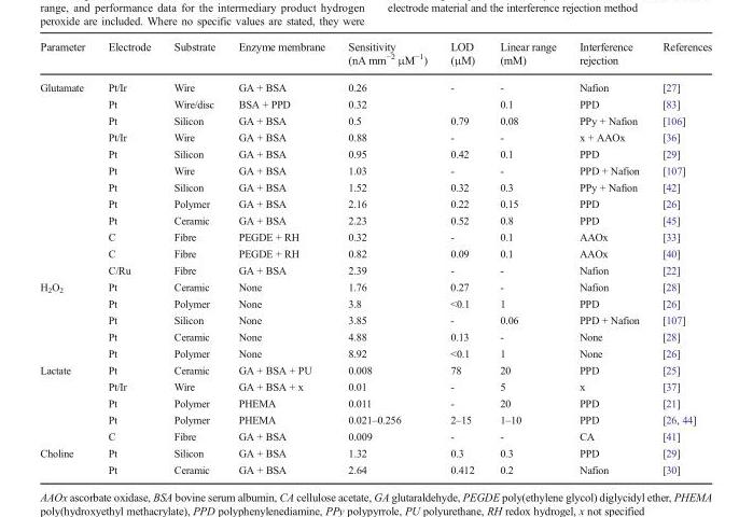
<table><thead><tr><td>Parameter</td><td>Electrode</td><td>Substrate</td><td>Enzyme membrane</td><td>Sensitivity (nA mm<sup>−2</sup> μM<sup>−1</sup>)</td><td>LOD (μM)</td><td>Linear range (mM)</td><td>Interference rejection</td><td>References</td></tr></thead><tbody><tr><td rowspan="12">Glutamate</td><td>Pt/Ir</td><td>Wire</td><td>GA + BSA</td><td>0.26</td><td>-</td><td>-</td><td>Nafion</td><td>[27]</td></tr><tr><td>Pt</td><td>Wire/disc</td><td>BSA + PPD</td><td>0.32</td><td></td><td>0.1</td><td>PPD</td><td>[83]</td></tr><tr><td>Pt</td><td>Silicon</td><td>GA + BSA</td><td>0.5</td><td>0.79</td><td>0.08</td><td>PPy + Nafion</td><td>[106]</td></tr><tr><td>Pt/Ir</td><td>Wire</td><td>GA + BSA</td><td>0.88</td><td>-</td><td>-</td><td>x + AAOx</td><td>[36]</td></tr><tr><td>Pt</td><td>Silicon</td><td>GA + BSA</td><td>0.95</td><td>0.42</td><td>0.1</td><td>PPD</td><td>[29]</td></tr><tr><td>Pt</td><td>Wire</td><td>GA + BSA</td><td>1.03</td><td>-</td><td>-</td><td>PPD + Nafion</td><td>[107]</td></tr><tr><td>Pt</td><td>Silicon</td><td>GA + BSA</td><td>1.52</td><td>0.32</td><td>0.3</td><td>PPy + Nafion</td><td>[42]</td></tr><tr><td>Pt</td><td>Polymer</td><td>GA + BSA</td><td>2.16</td><td>0.22</td><td>0.15</td><td>PPD</td><td>[26]</td></tr><tr><td>Pt</td><td>Ceramic</td><td>GA + BSA</td><td>2.23</td><td>0.52</td><td>0.8</td><td>PPD</td><td>[45]</td></tr><tr><td>C</td><td>Fibre</td><td>PEGDE + RH</td><td>0.32</td><td>-</td><td>0.1</td><td>AAOx</td><td>[33]</td></tr><tr><td>C</td><td>Fibre</td><td>PEGDE + RH</td><td>0.82</td><td>0.09</td><td>0.1</td><td>AAOx</td><td>[40]</td></tr><tr><td>C/Ru</td><td>Fibre</td><td>GA + BSA</td><td>2.39</td><td>-</td><td>-</td><td>Nafion</td><td>[22]</td></tr><tr><td rowspan="5">H<sub>2</sub>O<sub>2</sub></td><td>Pt</td><td>Ceramic</td><td>None</td><td>1.76</td><td>0.27</td><td>-</td><td>Nafion</td><td>[28]</td></tr><tr><td>Pt</td><td>Polymer</td><td>None</td><td>3.8</td><td>&lt;0.1</td><td>1</td><td>PPD</td><td>[26]</td></tr><tr><td>Pt</td><td>Silicon</td><td>None</td><td>3.85</td><td>-</td><td>0.06</td><td>PPD + Nafion</td><td>[107]</td></tr><tr><td>Pt</td><td>Ceramic</td><td>None</td><td>4.88</td><td>0.13</td><td>-</td><td>None</td><td>[28]</td></tr><tr><td>Pt</td><td>Polymer</td><td>None</td><td>8.92</td><td>&lt;0.1</td><td>1</td><td>None</td><td>[26]</td></tr><tr><td rowspan="5">Lactate</td><td>Pt</td><td>Ceramic</td><td>GA + BSA + PU</td><td>0.008</td><td>78</td><td>20</td><td>PPD</td><td>[25]</td></tr><tr><td>Pt/Ir</td><td>Wire</td><td>GA + BSA + x</td><td>0.01</td><td>-</td><td>5</td><td>x</td><td>[37]</td></tr><tr><td>Pt</td><td>Polymer</td><td>PHEMA</td><td>0.011</td><td>-</td><td>20</td><td>PPD</td><td>[21]</td></tr><tr><td>Pt</td><td>Polymer</td><td>PHEMA</td><td>0.021–0.256</td><td>2–15</td><td>1–10</td><td>PPD</td><td>[26, 44]</td></tr><tr><td>C</td><td>Fibre</td><td>GA + BSA</td><td>0.009</td><td>-</td><td>-</td><td>CA</td><td>[41]</td></tr><tr><td rowspan="2">Choline</td><td>Pt</td><td>Silicon</td><td>GA + BSA</td><td>1.32</td><td>0.3</td><td>0.3</td><td>PPD</td><td>[29]</td></tr><tr><td>Pt</td><td>Ceramic</td><td>GA + BSA</td><td>2.64</td><td>0.412</td><td>0.2</td><td>Nafion</td><td>[30]</td></tr></tbody></table>